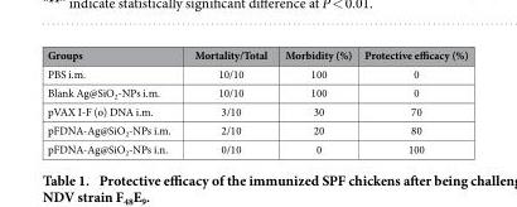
<table><thead><tr><td>Groups</td><td>Mortality/Total</td><td>Morbidity (%)</td><td>Protective efficacy (%)</td></tr></thead><tbody><tr><td>PBS i.m.</td><td>10/10</td><td>100</td><td>0</td></tr><tr><td>Blank Ag@SiO<sub>2</sub>-NPs i.m.</td><td>10/10</td><td>100</td><td>0</td></tr><tr><td>pVAX I-F (o) DNA i.m.</td><td>3/10</td><td>30</td><td>70</td></tr><tr><td>pFDNA-Ag@SiO<sub>2</sub>-NPs i.m.</td><td>2/10</td><td>20</td><td>80</td></tr><tr><td>pFDNA-Ag@SiO<sub>2</sub>-NPs i.n.</td><td>0/10</td><td>0</td><td>100</td></tr></tbody></table>